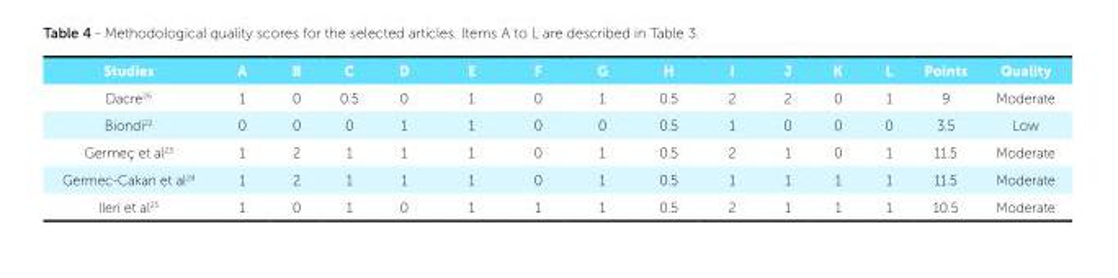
<table><thead><tr><td>Studies</td><td>A</td><td>B</td><td>C</td><td>D</td><td>E</td><td>F</td><td>G</td><td>H</td><td>I</td><td>J</td><td>K</td><td>L</td><td>Points</td><td>Quality</td></tr></thead><tbody><tr><td>Dacre<sup>26</sup></td><td>1</td><td>0</td><td>0.5</td><td>0</td><td>1</td><td>0</td><td>1</td><td>0.5</td><td>2</td><td>2</td><td>0</td><td>1</td><td>9</td><td>Moderate</td></tr><tr><td>Biondi<sup>22</sup></td><td>0</td><td>0</td><td>0</td><td>1</td><td>1</td><td>0</td><td>0</td><td>0.5</td><td>1</td><td>0</td><td>0</td><td>0</td><td>3.5</td><td>Low</td></tr><tr><td>Germeç et al<sup>23</sup></td><td>1</td><td>2</td><td>1</td><td>1</td><td>1</td><td>0</td><td>1</td><td>0.5</td><td>2</td><td>1</td><td>0</td><td>1</td><td>11.5</td><td>Moderate</td></tr><tr><td>Germec-Cakan et al<sup>24</sup></td><td>1</td><td>2</td><td>1</td><td>1</td><td>1</td><td>0</td><td>1</td><td>0.5</td><td>1</td><td>1</td><td>1</td><td>1</td><td>11.5</td><td>Moderate</td></tr><tr><td>Ileri et al<sup>25</sup></td><td>1</td><td>0</td><td>1</td><td>0</td><td>1</td><td>1</td><td>1</td><td>0.5</td><td>2</td><td>1</td><td>1</td><td>1</td><td>10.5</td><td>Moderate</td></tr></tbody></table>